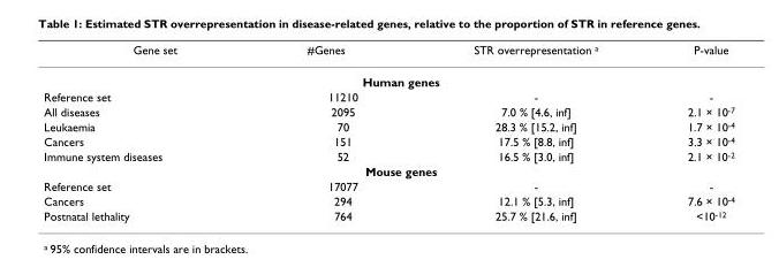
<table><thead><tr><td>Gene set</td><td>#Genes</td><td>STR overrepresentation <sup>a</sup></td><td>P-value</td></tr></thead><tbody><tr><td colspan="4">Human genes</td></tr><tr><td>Reference set</td><td>11210</td><td>-</td><td>-</td></tr><tr><td>All diseases</td><td>2095</td><td>7.0 % [4.6, inf]</td><td>2.1 × 10<sup>-7</sup></td></tr><tr><td>Leukaemia</td><td>70</td><td>28.3 % [15.2, inf]</td><td>1.7 × 10<sup>-4</sup></td></tr><tr><td>Cancers</td><td>151</td><td>17.5 % [8.8, inf]</td><td>3.3 × 10<sup>-4</sup></td></tr><tr><td>Immune system diseases</td><td>52</td><td>16.5 % [3.0, inf]</td><td>2.1 × 10<sup>-2</sup></td></tr><tr><td colspan="4">Mouse genes</td></tr><tr><td>Reference set</td><td>17077</td><td>-</td><td>-</td></tr><tr><td>Cancers</td><td>294</td><td>12.1 % [5.3, inf]</td><td>7.6 × 10<sup>-4</sup></td></tr><tr><td>Postnatal lethality</td><td>764</td><td>25.7 % [21.6, inf]</td><td>&lt;10<sup>-12</sup></td></tr></tbody></table>